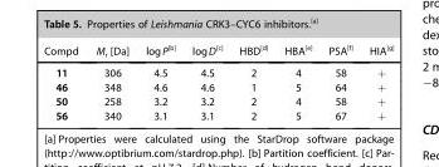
<table><thead><tr><td>Compd</td><td>M<sub>r</sub> [Da]</td><td>logP[b]</td><td>logD[c]</td><td>HBD[d]</td><td>HBA[e]</td><td>PSA[f]</td><td>HIA[g]</td></tr></thead><tbody><tr><td>11</td><td>306</td><td>4.5</td><td>4.5</td><td>2</td><td>4</td><td>58</td><td>+</td></tr><tr><td>46</td><td>348</td><td>4.6</td><td>4.6</td><td>1</td><td>5</td><td>64</td><td>+</td></tr><tr><td>50</td><td>258</td><td>3.2</td><td>3.2</td><td>2</td><td>4</td><td>58</td><td>+</td></tr><tr><td>56</td><td>340</td><td>3.1</td><td>3.1</td><td>2</td><td>5</td><td>67</td><td>+</td></tr></tbody></table>